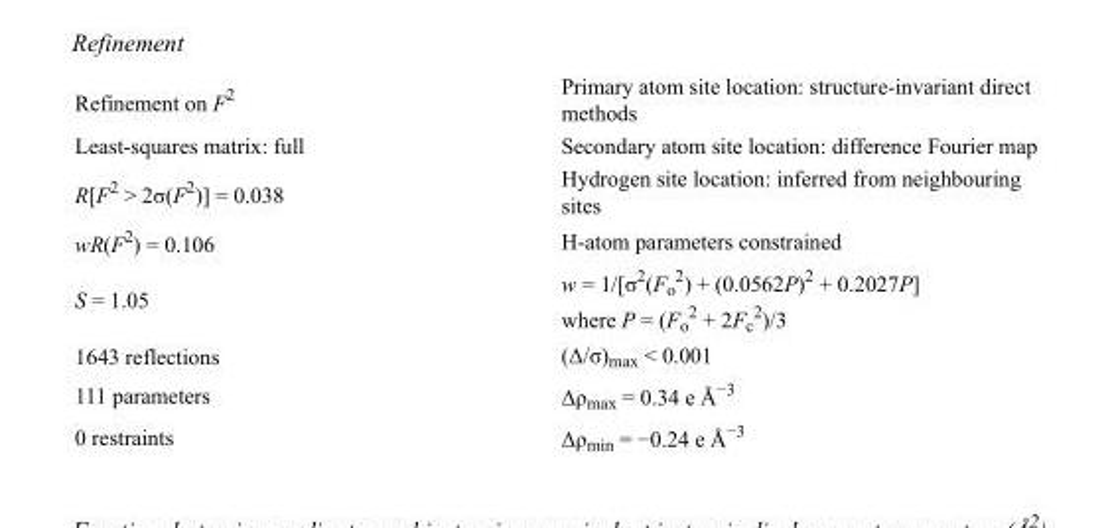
<table><tbody><tr><td>Refinement on F<sup>2</sup></td><td>Primary atom site location: structure-invariant direct methods</td></tr><tr><td>Least-squares matrix: full</td><td>Secondary atom site location: difference Fourier map</td></tr><tr><td>R[F<sup>2</sup> &gt; 2σ(F<sup>2</sup>)] = 0.038</td><td>Hydrogen site location: inferred from neighbouring sites</td></tr><tr><td>wR(F<sup>2</sup>) = 0.106</td><td>H-atom parameters constrained</td></tr><tr><td>S = 1.05</td><td>w = 1/[σ<sup>2</sup>(F<sub>o</sub> <sup>2</sup>) + (0.0562P)<sup>2</sup> + 0.2027P] where P = (F<sub>o</sub> <sup>2</sup> + 2F<sub>c</sub> <sup>2</sup>)/3</td></tr><tr><td>1643 reflections</td><td>(Δ/σ)<sub>max</sub> &lt; 0.001</td></tr><tr><td>111 parameters</td><td>Δρ<sub>max</sub> = 0.34 e Å<sup>−3</sup></td></tr><tr><td>0 restraints</td><td>Δρ<sub>min</sub> = −0.24 e Å<sup>−3</sup></td></tr></tbody></table>